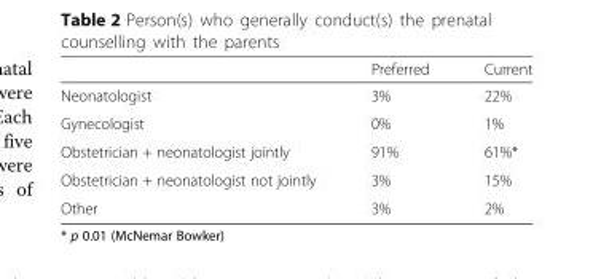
<table><thead><tr><td></td><td>Preferred</td><td>Current</td></tr></thead><tbody><tr><td>Neonatologist</td><td>3%</td><td>22%</td></tr><tr><td>Gynecologist</td><td>0%</td><td>1%</td></tr><tr><td>Obstetrician + neonatologist jointly</td><td>91%</td><td>61%*</td></tr><tr><td>Obstetrician + neonatologist not jointly</td><td>3%</td><td>15%</td></tr><tr><td>Other</td><td>3%</td><td>2%</td></tr></tbody></table>